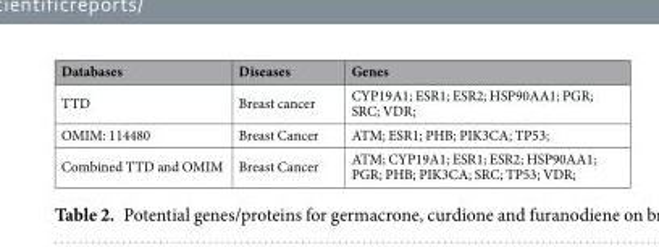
<table><thead><tr><td>Databases</td><td>Diseases</td><td>Genes</td></tr></thead><tbody><tr><td>TTD</td><td>Breast cancer</td><td>CYP19A1; ESR1; ESR2; HSP90AA1; PGR; SRC; VDR;</td></tr><tr><td>OMIM: 114480</td><td>Breast Cancer</td><td>ATM; ESR1; PHB; PIK3CA; TP53;</td></tr><tr><td>Combined TTD and OMIM</td><td>Breast Cancer</td><td>ATM; CYP19A1; ESR1; ESR2; HSP90AA1; PGR; PHB; PIK3CA; SRC; TP53; VDR;</td></tr></tbody></table>